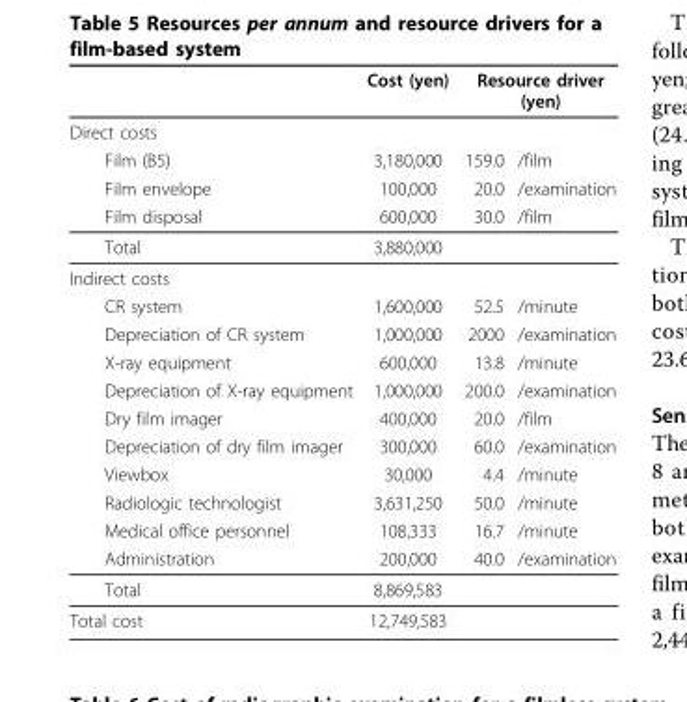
<table><thead><tr><td rowspan="2">Direct costs</td><td rowspan="2">Cost (yen)</td><td colspan="2">Resource driver (yen)</td></tr><tr><td></td><td></td></tr></thead><tbody><tr><td>Film (B5)</td><td>3,180,000</td><td>159.0</td><td>/film</td></tr><tr><td>Film envelope</td><td>100,000</td><td>20.0</td><td>/examination</td></tr><tr><td>Film disposal</td><td>600,000</td><td>30.0</td><td>/film</td></tr><tr><td>Total</td><td>3,880,000</td><td></td><td></td></tr><tr><td colspan="4">Indirect costs</td></tr><tr><td>CR system</td><td>1,600,000</td><td>52.5</td><td>/minute</td></tr><tr><td>Depreciation of CR system</td><td>1,000,000</td><td>2000</td><td>/examination</td></tr><tr><td>X-ray equipment</td><td>600,000</td><td>13.8</td><td>/minute</td></tr><tr><td>Depreciation of X-ray equipment</td><td>1,000,000</td><td>200.0</td><td>/examination</td></tr><tr><td>Dry film imager</td><td>400,000</td><td>20.0</td><td>/film</td></tr><tr><td>Depreciation of dry film imager</td><td>300,000</td><td>60.0</td><td>/examination</td></tr><tr><td>Viewbox</td><td>30,000</td><td>4.4</td><td>/minute</td></tr><tr><td>Radiologic technologist</td><td>3,631,250</td><td>50.0</td><td>/minute</td></tr><tr><td>Medical office personnel</td><td>108,333</td><td>16.7</td><td>/minute</td></tr><tr><td>Administration</td><td>200,000</td><td>40.0</td><td>/examination</td></tr><tr><td>Total</td><td>8,869,583</td><td></td><td></td></tr><tr><td>Total cost</td><td>12,749,583</td><td></td><td></td></tr></tbody></table>